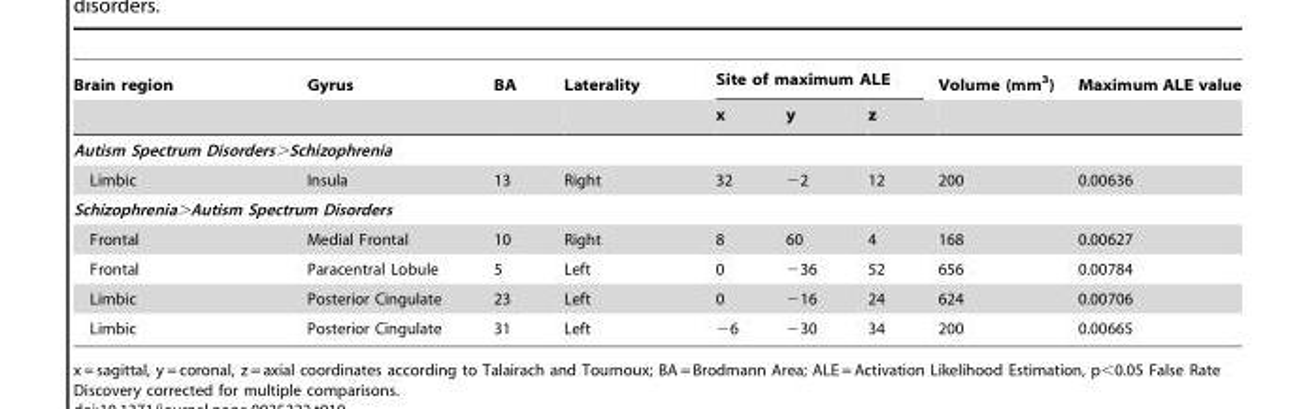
<table><thead><tr><td rowspan="2">Brain region</td><td rowspan="2">Gyrus</td><td rowspan="2">BA</td><td rowspan="2">Laterality</td><td colspan="3">Site of maximum ALE</td><td rowspan="2">Volume (mm<sup>3</sup>)</td><td rowspan="2">Maximum ALE value</td></tr><tr><td>x</td><td>y</td><td>z</td></tr></thead><tbody><tr><td colspan="9">Autism Spectrum Disorders&gt;Schizophrenia</td></tr><tr><td>Limbic</td><td>Insula</td><td>13</td><td>Right</td><td>32</td><td>−2</td><td>12</td><td>200</td><td>0.00636</td></tr><tr><td colspan="9">Schizophrenia&gt;Autism Spectrum Disorders</td></tr><tr><td>Frontal</td><td>Medial Frontal</td><td>10</td><td>Right</td><td>8</td><td>60</td><td>4</td><td>168</td><td>0.00627</td></tr><tr><td>Frontal</td><td>Paracentral Lobule</td><td>5</td><td>Left</td><td>0</td><td>−36</td><td>52</td><td>656</td><td>0.00784</td></tr><tr><td>Limbic</td><td>Posterior Cingulate</td><td>23</td><td>Left</td><td>0</td><td>−16</td><td>24</td><td>624</td><td>0.00706</td></tr><tr><td>Limbic</td><td>Posterior Cingulate</td><td>31</td><td>Left</td><td>−6</td><td>−30</td><td>34</td><td>200</td><td>0.00665</td></tr></tbody></table>